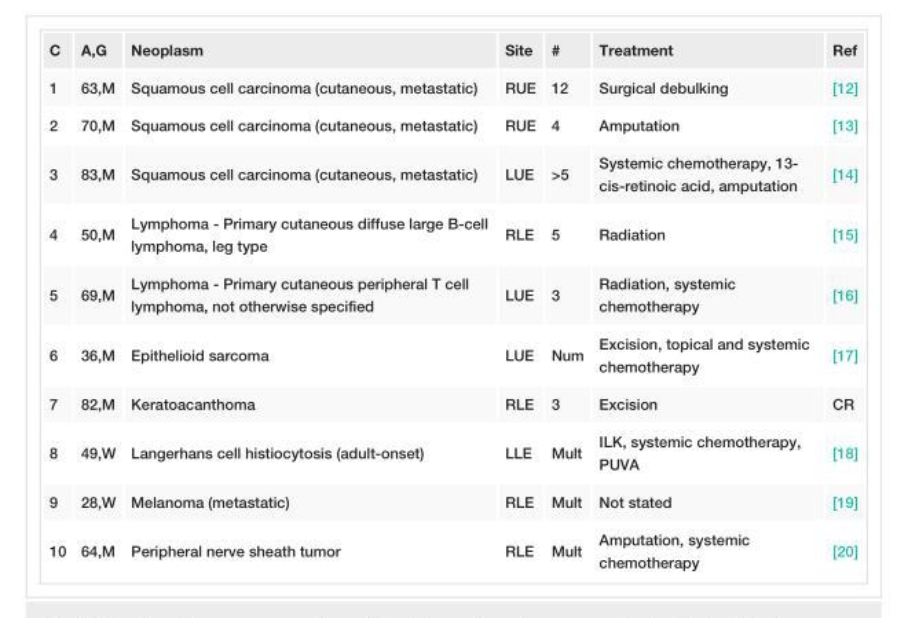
<table><tbody><tr><td>C</td><td>A,G</td><td>Neoplasm</td><td>Site</td><td>#</td><td>Treatment</td><td>Ref</td></tr><tr><td>1</td><td>63,M</td><td>Squamous cell carcinoma (cutaneous, metastatic)</td><td>RUE</td><td>12</td><td>Surgical debulking</td><td>[12]</td></tr><tr><td>2</td><td>70,M</td><td>Squamous cell carcinoma (cutaneous, metastatic)</td><td>RUE</td><td>4</td><td>Amputation</td><td>[13]</td></tr><tr><td>3</td><td>83,M</td><td>Squamous cell carcinoma (cutaneous, metastatic)</td><td>LUE</td><td>&gt;5</td><td>Systemic chemotherapy, 13- cis-retinoic acid, amputation</td><td>[14]</td></tr><tr><td>4</td><td>50,M</td><td>Lymphoma - Primary cutaneous diffuse large B-cell lymphoma, leg type</td><td>RLE</td><td>5</td><td>Radiation</td><td>[15]</td></tr><tr><td>5</td><td>69,M</td><td>Lymphoma - Primary cutaneous peripheral T cell lymphoma, not otherwise specified</td><td>LUE</td><td>3</td><td>Radiation, systemic chemotherapy</td><td>[16]</td></tr><tr><td>6</td><td>36,M</td><td>Epithelioid sarcoma</td><td>LUE</td><td>Num</td><td>Excision, topical and systemic chemotherapy</td><td>[17]</td></tr><tr><td>7</td><td>82,M</td><td>Keratoacanthoma</td><td>RLE</td><td>3</td><td>Excision</td><td>CR</td></tr><tr><td>8</td><td>49,W</td><td>Langerhans cell histiocytosis (adult-onset)</td><td>LLE</td><td>Mult</td><td>ILK, systemic chemotherapy, PUVA</td><td>[18]</td></tr><tr><td>9</td><td>28,W</td><td>Melanoma (metastatic)</td><td>RLE</td><td>Mult</td><td>Not stated</td><td>[19]</td></tr><tr><td>10</td><td>64,M</td><td>Peripheral nerve sheath tumor</td><td>RLE</td><td>Mult</td><td>Amputation, systemic chemotherapy</td><td>[20]</td></tr></tbody></table>